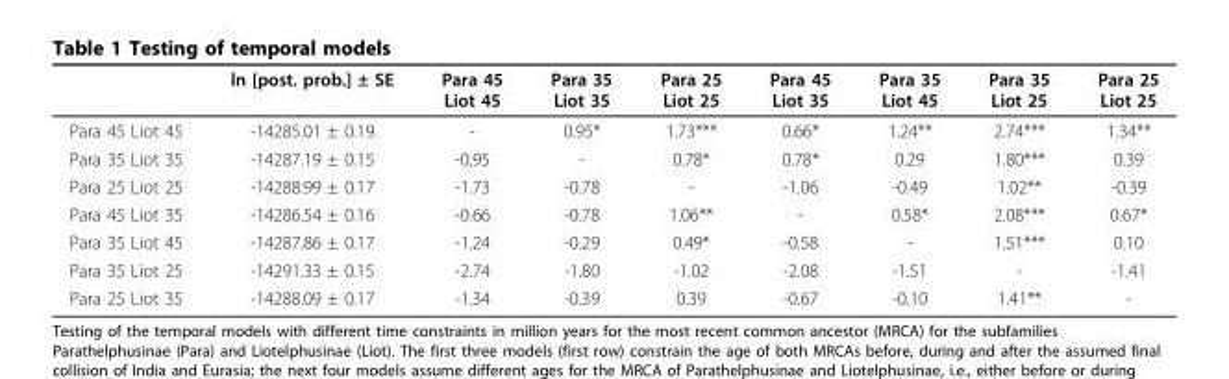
<table><thead><tr><td></td><td>ln [post. prob.] ± SE</td><td>Para 45 Liot 45</td><td>Para 35 Liot 35</td><td>Para 25 Liot 25</td><td>Para 45 Liot 35</td><td>Para 35 Liot 45</td><td>Para 35 Liot 25</td><td>Para 25 Liot 25</td></tr></thead><tbody><tr><td>Para 45 Liot 45</td><td>-14285.01 ± 0.19</td><td>-</td><td>0.95*</td><td>1.73***</td><td>0.66*</td><td>1.24**</td><td>2.74***</td><td>1.34**</td></tr><tr><td>Para 35 Liot 35</td><td>-14287.19 ± 0.15</td><td>-0,95</td><td>-</td><td>0.78*</td><td>0.78*</td><td>0.29</td><td>1.80***</td><td>0.39</td></tr><tr><td>Para 25 Liot 25</td><td>-14288.99 ± 0.17</td><td>-1.73</td><td>-0.78</td><td>-</td><td>-1.06</td><td>-0.49</td><td>1.02**</td><td>-0.39</td></tr><tr><td>Para 45 Liot 35</td><td>-14286.54 ± 0.16</td><td>-0.66</td><td>-0.78</td><td>1.06**</td><td>-</td><td>0.58*</td><td>2.08***</td><td>0.67*</td></tr><tr><td>Para 35 Liot 45</td><td>-14287.86 ± 0.17</td><td>-1.24</td><td>-0.29</td><td>0.49*</td><td>-0.58</td><td>-</td><td>1.51***</td><td>0.10</td></tr><tr><td>Para 35 Liot 25</td><td>-14291.33 ± 0.15</td><td>-2.74</td><td>-1.80</td><td>-1.02</td><td>-2.08</td><td>-1.51</td><td>-</td><td>-1.41</td></tr><tr><td>Para 25 Liot 35</td><td>-14288.09 ± 0.17</td><td>-1.34</td><td>-0.39</td><td>0.39</td><td>-0.67</td><td>-0.10</td><td>1.41**</td><td>-</td></tr></tbody></table>